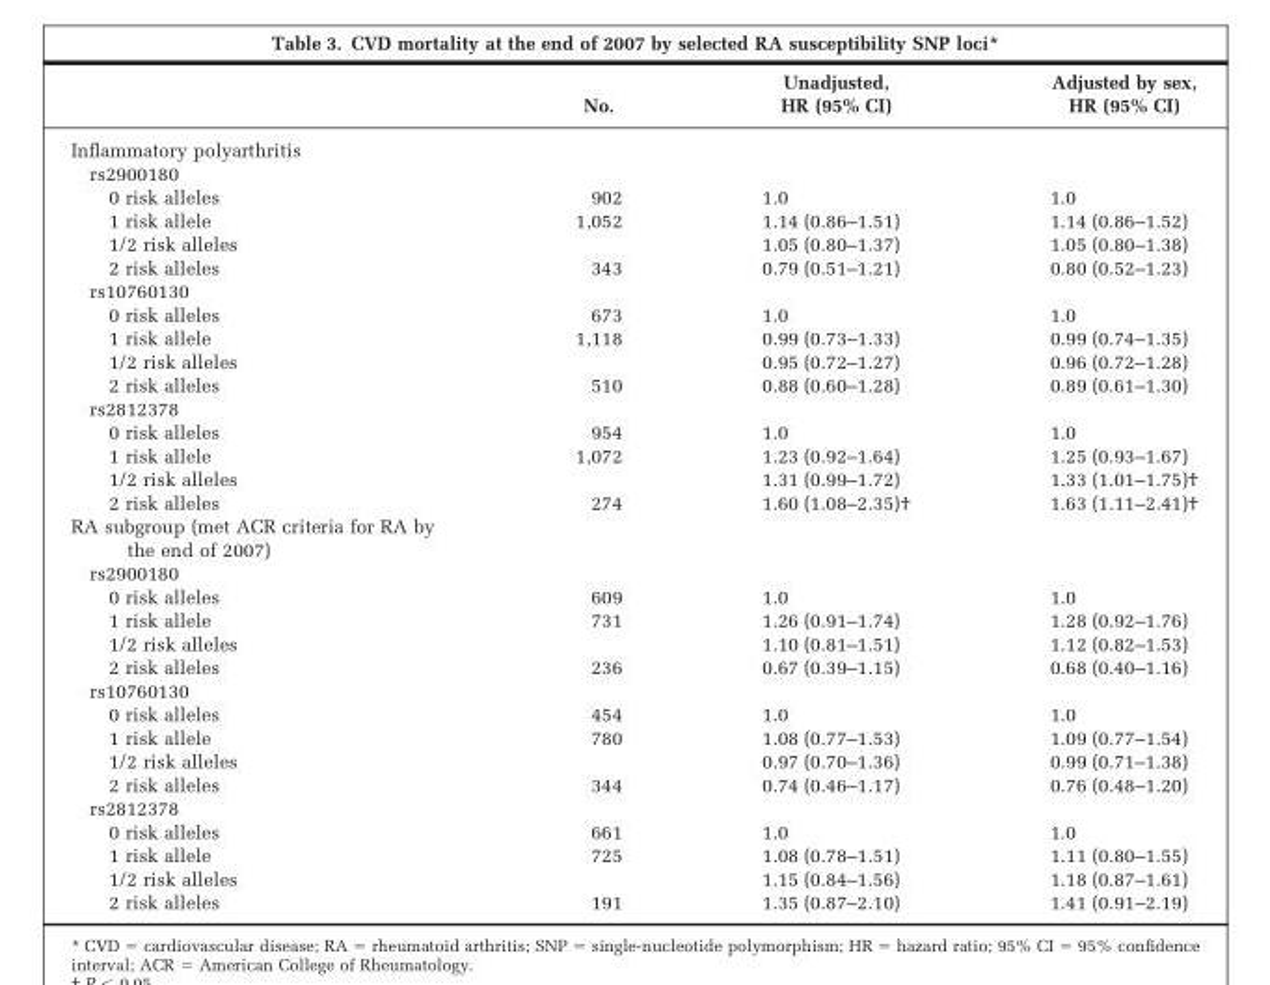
<table><thead><tr><td></td><td>No.</td><td>Unadjusted, HR (95% CI)</td><td>Adjusted by sex, HR (95% CI)</td></tr></thead><tbody><tr><td colspan="4">Inflammatory polyarthritis</td></tr><tr><td colspan="4">rs2900180</td></tr><tr><td>0 risk alleles</td><td>902</td><td>1.0</td><td>1.0</td></tr><tr><td>1 risk allele</td><td>1,052</td><td>1.14 (0.86–1.51)</td><td>1.14 (0.86–1.52)</td></tr><tr><td>1/2 risk alleles</td><td></td><td>1.05 (0.80–1.37)</td><td>1.05 (0.80–1.38)</td></tr><tr><td>2 risk alleles</td><td>343</td><td>0.79 (0.51–1.21)</td><td>0.80 (0.52–1.23)</td></tr><tr><td colspan="4">rs10760130</td></tr><tr><td>0 risk alleles</td><td>673</td><td>1.0</td><td>1.0</td></tr><tr><td>1 risk allele</td><td>1,118</td><td>0.99 (0.73–1.33)</td><td>0.99 (0.74–1.35)</td></tr><tr><td>1/2 risk alleles</td><td></td><td>0.95 (0.72–1.27)</td><td>0.96 (0.72–1.28)</td></tr><tr><td>2 risk alleles</td><td>510</td><td>0.88 (0.60–1.28)</td><td>0.89 (0.61–1.30)</td></tr><tr><td colspan="4">rs2812378</td></tr><tr><td>0 risk alleles</td><td>954</td><td>1.0</td><td>1.0</td></tr><tr><td>1 risk allele</td><td>1,072</td><td>1.23 (0.92–1.64)</td><td>1.25 (0.93–1.67)</td></tr><tr><td>1/2 risk alleles</td><td></td><td>1.31 (0.99–1.72)</td><td>1.33 (1.01–1.75)†</td></tr><tr><td>2 risk alleles</td><td>274</td><td>1.60 (1.08–2.35)†</td><td>1.63 (1.11–2.41)†</td></tr><tr><td colspan="4">RA subgroup (met ACR criteria for RA by the end of 2007)</td></tr><tr><td colspan="4">rs2900180</td></tr><tr><td>0 risk alleles</td><td>609</td><td>1.0</td><td>1.0</td></tr><tr><td>1 risk allele</td><td>731</td><td>1.26 (0.91–1.74)</td><td>1.28 (0.92–1.76)</td></tr><tr><td>1/2 risk alleles</td><td></td><td>1.10 (0.81–1.51)</td><td>1.12 (0.82–1.53)</td></tr><tr><td>2 risk alleles</td><td>236</td><td>0.67 (0.39–1.15)</td><td>0.68 (0.40–1.16)</td></tr><tr><td colspan="4">rs10760130</td></tr><tr><td>0 risk alleles</td><td>454</td><td>1.0</td><td>1.0</td></tr><tr><td>1 risk allele</td><td>780</td><td>1.08 (0.77–1.53)</td><td>1.09 (0.77–1.54)</td></tr><tr><td>1/2 risk alleles</td><td></td><td>0.97 (0.70–1.36)</td><td>0.99 (0.71–1.38)</td></tr><tr><td>2 risk alleles</td><td>344</td><td>0.74 (0.46–1.17)</td><td>0.76 (0.48–1.20)</td></tr><tr><td colspan="4">rs2812378</td></tr><tr><td>0 risk alleles</td><td>661</td><td>1.0</td><td>1.0</td></tr><tr><td>1 risk allele</td><td>725</td><td>1.08 (0.78–1.51)</td><td>1.11 (0.80–1.55)</td></tr><tr><td>1/2 risk alleles</td><td></td><td>1.15 (0.84–1.56)</td><td>1.18 (0.87–1.61)</td></tr><tr><td>2 risk alleles</td><td>191</td><td>1.35 (0.87–2.10)</td><td>1.41 (0.91–2.19)</td></tr></tbody></table>